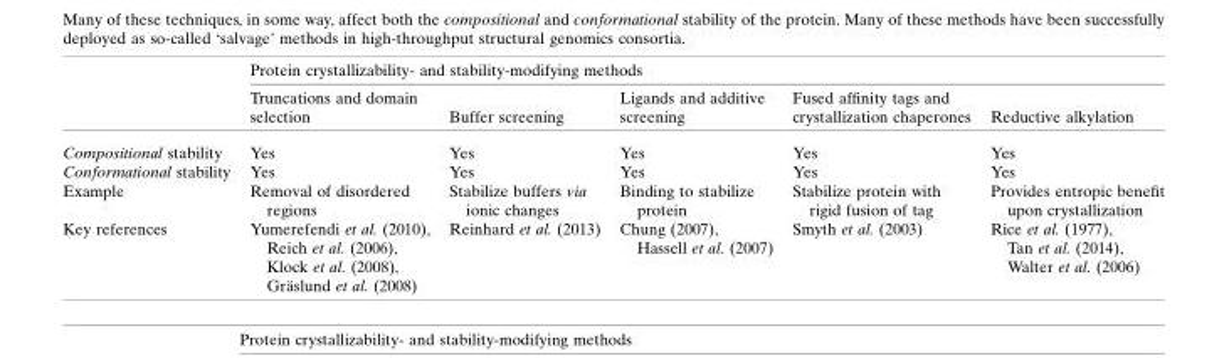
<table><thead><tr><td rowspan="2"></td><td colspan="5">Protein crystallizability- and stability-modifying methods</td></tr><tr><td>Truncations and domain selection</td><td>Buffer screening</td><td>Ligands and additive screening</td><td>Fused affinity tags and crystallization chaperones</td><td>Reductive alkylation</td></tr></thead><tbody><tr><td>Compositional stability</td><td>Yes</td><td>Yes</td><td>Yes</td><td>Yes</td><td>Yes</td></tr><tr><td>Conformational stability</td><td>Yes</td><td>Yes</td><td>Yes</td><td>Yes</td><td>Yes</td></tr><tr><td>Example</td><td>Removal of disordered regions</td><td>Stabilize buffers via ionic changes</td><td>Binding to stabilize protein</td><td>Stabilize protein with rigid fusion of tag</td><td>Provides entropic benefit upon crystallization</td></tr><tr><td>Key references</td><td>Yumerefendi et al. (2010), Reich et al. (2006), Klock et al. (2008), Gra¨slund et al. (2008)</td><td>Reinhard et al. (2013)</td><td>Chung (2007), Hassell et al. (2007)</td><td>Smyth et al. (2003)</td><td>Rice et al. (1977), Tan et al. (2014), Walter et al. (2006)</td></tr></tbody></table>